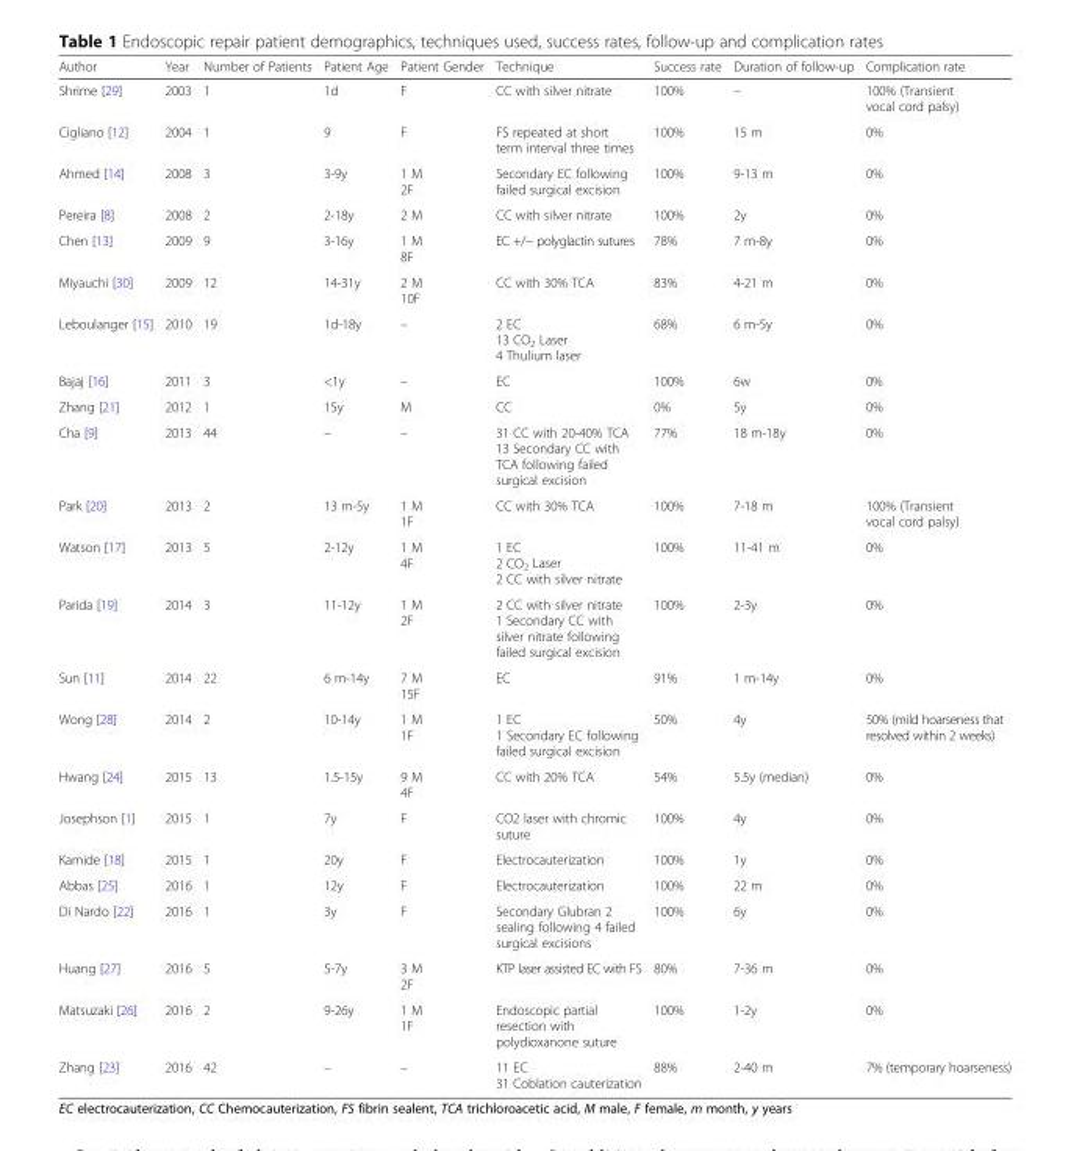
<table><thead><tr><td>Author</td><td>Year</td><td>Number of Patients</td><td>Patient Age</td><td>Patient Gender</td><td>Technique</td><td>Success rate</td><td>Duration of follow-up</td><td>Complication rate</td></tr></thead><tbody><tr><td>Shrime [29]</td><td>2003</td><td>1</td><td>1d</td><td>F</td><td>CC with silver nitrate</td><td>100%</td><td>–</td><td>100% (Transient vocal cord palsy)</td></tr><tr><td>Cigliano [12]</td><td>2004</td><td>1</td><td>9</td><td>F</td><td>FS repeated at short term interval three times</td><td>100%</td><td>15 m</td><td>0%</td></tr><tr><td>Ahmed [14]</td><td>2008</td><td>3</td><td>3-9y</td><td>1 M 2F</td><td>Secondary EC following failed surgical excision</td><td>100%</td><td>9-13 m</td><td>0%</td></tr><tr><td>Pereira [8]</td><td>2008</td><td>2</td><td>2-18y</td><td>2 M</td><td>CC with silver nitrate</td><td>100%</td><td>2y</td><td>0%</td></tr><tr><td>Chen [13]</td><td>2009</td><td>9</td><td>3-16y</td><td>1 M 8F</td><td>EC +/− polyglactin sutures</td><td>78%</td><td>7 m-8y</td><td>0%</td></tr><tr><td>Miyauchi [30]</td><td>2009</td><td>12</td><td>14-31y</td><td>2 M 10F</td><td>CC with 30% TCA</td><td>83%</td><td>4-21 m</td><td>0%</td></tr><tr><td>Leboulanger [15]</td><td>2010</td><td>19</td><td>1d-18y</td><td>–</td><td>2 EC 13 CO<sub>2</sub> Laser 4 Thulium laser</td><td>68%</td><td>6 m-5y</td><td>0%</td></tr><tr><td>Bajaj [16]</td><td>2011</td><td>3</td><td>&lt;1y</td><td>–</td><td>EC</td><td>100%</td><td>6w</td><td>0%</td></tr><tr><td>Zhang [21]</td><td>2012</td><td>1</td><td>15y</td><td>M</td><td>CC</td><td>0%</td><td>5y</td><td>0%</td></tr><tr><td>Cha [9]</td><td>2013</td><td>44</td><td>–</td><td>–</td><td>31 CC with 20-40% TCA 13 Secondary CC with TCA following failed surgical excision</td><td>77%</td><td>18 m-18y</td><td>0%</td></tr><tr><td>Park [20]</td><td>2013</td><td>2</td><td>13 m-5y</td><td>1 M 1F</td><td>CC with 30% TCA</td><td>100%</td><td>7-18 m</td><td>100% (Transient vocal cord palsy)</td></tr><tr><td>Watson [17]</td><td>2013</td><td>5</td><td>2-12y</td><td>1 M 4F</td><td>1 EC 2 CO<sub>2</sub> Laser 2 CC with silver nitrate</td><td>100%</td><td>11-41 m</td><td>0%</td></tr><tr><td>Parida [19]</td><td>2014</td><td>3</td><td>11-12y</td><td>1 M 2F</td><td>2 CC with silver nitrate 1 Secondary CC with silver nitrate following failed surgical excision</td><td>100%</td><td>2-3y</td><td>0%</td></tr><tr><td>Sun [11]</td><td>2014</td><td>22</td><td>6 m-14y</td><td>7 M 15F</td><td>EC</td><td>91%</td><td>1 m-14y</td><td>0%</td></tr><tr><td>Wong [28]</td><td>2014</td><td>2</td><td>10-14y</td><td>1 M 1F</td><td>1 EC 1 Secondary EC following failed surgical excision</td><td>50%</td><td>4y</td><td>50% (mild hoarseness that resolved within 2 weeks)</td></tr><tr><td>Hwang [24]</td><td>2015</td><td>13</td><td>1.5-15y</td><td>9 M 4F</td><td>CC with 20% TCA</td><td>54%</td><td>5.5y (median)</td><td>0%</td></tr><tr><td>Josephson [1]</td><td>2015</td><td>1</td><td>7y</td><td>F</td><td>CO2 laser with chromic suture</td><td>100%</td><td>4y</td><td>0%</td></tr><tr><td>Kamide [18]</td><td>2015</td><td>1</td><td>20y</td><td>F</td><td>Electrocauterization</td><td>100%</td><td>1y</td><td>0%</td></tr><tr><td>Abbas [25]</td><td>2016</td><td>1</td><td>12y</td><td>F</td><td>Electrocauterization</td><td>100%</td><td>22 m</td><td>0%</td></tr><tr><td>Di Nardo [22]</td><td>2016</td><td>1</td><td>3y</td><td>F</td><td>Secondary Glubran 2 sealing following 4 failed surgical excisions</td><td>100%</td><td>6y</td><td>0%</td></tr><tr><td>Huang [27]</td><td>2016</td><td>5</td><td>5-7y</td><td>3 M 2F</td><td>KTP laser assisted EC with FS</td><td>80%</td><td>7-36 m</td><td>0%</td></tr><tr><td>Matsuzaki [26]</td><td>2016</td><td>2</td><td>9-26y</td><td>1 M 1F</td><td>Endoscopic partial resection with polydioxanone suture</td><td>100%</td><td>1-2y</td><td>0%</td></tr><tr><td>Zhang [23]</td><td>2016</td><td>42</td><td>–</td><td>–</td><td>11 EC 31 Coblation cauterization</td><td>88%</td><td>2-40 m</td><td>7% (temporary hoarseness)</td></tr></tbody></table>